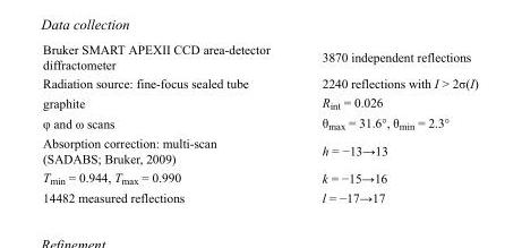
<table><tbody><tr><td>Bruker SMART APEXII CCD area-detector diffractometer</td><td>3870 independent reflections</td></tr><tr><td>Radiation source: fine-focus sealed tube</td><td>2240 reflections with I &gt; 2σ(I)</td></tr><tr><td>graphite</td><td>R<sub>int</sub> = 0.026</td></tr><tr><td>φ and ω scans</td><td>θ<sub>max</sub> = 31.6°, θ<sub>min</sub> = 2.3°</td></tr><tr><td>Absorption correction: multi-scan (SADABS; Bruker, 2009)</td><td>h = −13→13</td></tr><tr><td>T<sub>min</sub> = 0.944, T<sub>max</sub> = 0.990</td><td>k = −15→16</td></tr><tr><td>14482 measured reflections</td><td>l = −17→17</td></tr></tbody></table>